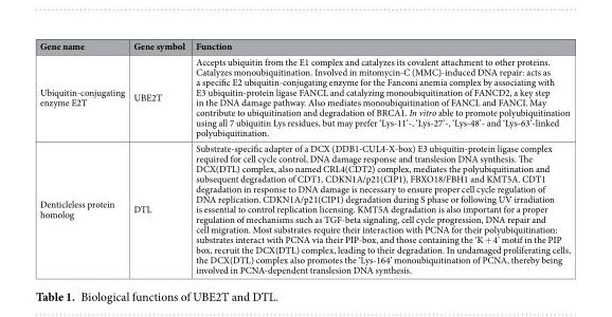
<table><thead><tr><td>Gene name</td><td>Gene symbol</td><td>Function</td></tr></thead><tbody><tr><td>Ubiquitin-conjugating enzyme E2T</td><td>UBE2T</td><td>Accepts ubiquitin from the E1 complex and catalyzes its covalent attachment to other proteins. Catalyzes monoubiquitination. Involved in mitomycin-C (MMC)-induced DNA repair: acts as a specific E2 ubiquitin-conjugating enzyme for the Fanconi anemia complex by associating with E3 ubiquitin-protein ligase FANCL and catalyzing monoubiquitination of FANCD2, a key step in the DNA damage pathway. Also mediates monoubiquitination of FANCL and FANCI. May contribute to ubiquitination and degradation of BRCA1. In vitro able to promote polyubiquitination using all 7 ubiquitin Lys residues, but may prefer ‘Lys-11’-, ‘Lys-27’-, ‘Lys-48’- and ‘Lys-63’-linked polyubiquitination.</td></tr><tr><td>Denticleless protein homolog</td><td>DTL</td><td>Substrate-specific adapter of a DCX (DDB1-CUL4-X-box) E3 ubiquitin-protein ligase complex required for cell cycle control, DNA damage response and translesion DNA synthesis. The DCX(DTL) complex, also named CRL4(CDT2) complex, mediates the polyubiquitination and subsequent degradation of CDT1, CDKN1A/p21(CIP1), FBXO18/FBH1 and KMT5A. CDT1 degradation in response to DNA damage is necessary to ensure proper cell cycle regulation of DNA replication. CDKN1A/p21(CIP1) degradation during S phase or following UV irradiation is essential to control replication licensing. KMT5A degradation is also important for a proper regulation of mechanisms such as TGF-beta signaling, cell cycle progression, DNA repair and cell migration. Most substrates require their interaction with PCNA for their polyubiquitination: substrates interact with PCNA via their PIP-box, and those containing the ‘K + 4’ motif in the PIP box, recruit the DCX(DTL) complex, leading to their degradation. In undamaged proliferating cells, the DCX(DTL) complex also promotes the ‘Lys-164’ monoubiquitination of PCNA, thereby being involved in PCNA-dependent translesion DNA synthesis.</td></tr></tbody></table>